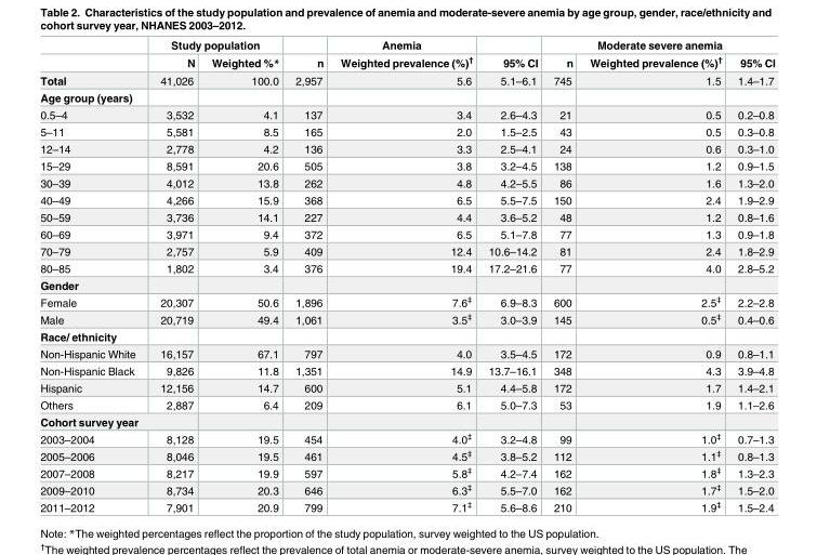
<table><thead><tr><td rowspan="2"></td><td colspan="2">Study population</td><td rowspan="2">n</td><td rowspan="2">Anemia Weighted prevalence (%)<sup>†</sup></td><td rowspan="2">95% CI</td><td colspan="3">Moderate severe anemia</td></tr><tr><td>N</td><td>Weighted %*</td><td>n</td><td>Weighted prevalence (%)<sup>†</sup></td><td>95% CI</td></tr></thead><tbody><tr><td>Total</td><td>41,026</td><td>100.0</td><td>2,957</td><td>5.6</td><td>5.1–6.1</td><td>745</td><td>1.5</td><td>1.4–1.7</td></tr><tr><td colspan="9">Age group (years)</td></tr><tr><td>0.5–4</td><td>3,532</td><td>4.1</td><td>137</td><td>3.4</td><td>2.6–4.3</td><td>21</td><td>0.5</td><td>0.2–0.8</td></tr><tr><td>5–11</td><td>5,581</td><td>8.5</td><td>165</td><td>2.0</td><td>1.5–2.5</td><td>43</td><td>0.5</td><td>0.3–0.8</td></tr><tr><td>12–14</td><td>2,778</td><td>4.2</td><td>136</td><td>3.3</td><td>2.5–4.1</td><td>24</td><td>0.6</td><td>0.3–1.0</td></tr><tr><td>15–29</td><td>8,591</td><td>20.6</td><td>505</td><td>3.8</td><td>3.2–4.5</td><td>138</td><td>1.2</td><td>0.9–1.5</td></tr><tr><td>30–39</td><td>4,012</td><td>13.8</td><td>262</td><td>4.8</td><td>4.2–5.5</td><td>86</td><td>1.6</td><td>1.3–2.0</td></tr><tr><td>40–49</td><td>4,266</td><td>15.9</td><td>368</td><td>6.5</td><td>5.5–7.5</td><td>150</td><td>2.4</td><td>1.9–2.9</td></tr><tr><td>50–59</td><td>3,736</td><td>14.1</td><td>227</td><td>4.4</td><td>3.6–5.2</td><td>48</td><td>1.2</td><td>0.8–1.6</td></tr><tr><td>60–69</td><td>3,971</td><td>9.4</td><td>372</td><td>6.5</td><td>5.1–7.8</td><td>77</td><td>1.3</td><td>0.9–1.8</td></tr><tr><td>70–79</td><td>2,757</td><td>5.9</td><td>409</td><td>12.4</td><td>10.6–14.2</td><td>81</td><td>2.4</td><td>1.8–2.9</td></tr><tr><td>80–85</td><td>1,802</td><td>3.4</td><td>376</td><td>19.4</td><td>17.2–21.6</td><td>77</td><td>4.0</td><td>2.8–5.2</td></tr><tr><td colspan="9">Gender</td></tr><tr><td>Female</td><td>20,307</td><td>50.6</td><td>1,896</td><td>7.6<sup>‡</sup></td><td>6.9–8.3</td><td>600</td><td>2.5<sup>‡</sup></td><td>2.2–2.8</td></tr><tr><td>Male</td><td>20,719</td><td>49.4</td><td>1,061</td><td>3.5<sup>‡</sup></td><td>3.0–3.9</td><td>145</td><td>0.5<sup>‡</sup></td><td>0.4–0.6</td></tr><tr><td colspan="9">Race/ ethnicity</td></tr><tr><td>Non-Hispanic White</td><td>16,157</td><td>67.1</td><td>797</td><td>4.0</td><td>3.5–4.5</td><td>172</td><td>0.9</td><td>0.8–1.1</td></tr><tr><td>Non-Hispanic Black</td><td>9,826</td><td>11.8</td><td>1,351</td><td>14.9</td><td>13.7–16.1</td><td>348</td><td>4.3</td><td>3.9–4.8</td></tr><tr><td>Hispanic</td><td>12,156</td><td>14.7</td><td>600</td><td>5.1</td><td>4.4–5.8</td><td>172</td><td>1.7</td><td>1.4–2.1</td></tr><tr><td>Others</td><td>2,887</td><td>6.4</td><td>209</td><td>6.1</td><td>5.0–7.3</td><td>53</td><td>1.9</td><td>1.1–2.6</td></tr><tr><td colspan="9">Cohort survey year</td></tr><tr><td>2003–2004</td><td>8,128</td><td>19.5</td><td>454</td><td>4.0<sup>‡</sup></td><td>3.2–4.8</td><td>99</td><td>1.0<sup>‡</sup></td><td>0.7–1.3</td></tr><tr><td>2005–2006</td><td>8,046</td><td>19.5</td><td>461</td><td>4.5<sup>‡</sup></td><td>3.8–5.2</td><td>112</td><td>1.1<sup>‡</sup></td><td>0.8–1.3</td></tr><tr><td>2007–2008</td><td>8,217</td><td>19.9</td><td>597</td><td>5.8<sup>‡</sup></td><td>4.2–7.4</td><td>162</td><td>1.8<sup>‡</sup></td><td>1.3–2.3</td></tr><tr><td>2009–2010</td><td>8,734</td><td>20.3</td><td>646</td><td>6.3<sup>‡</sup></td><td>5.5–7.0</td><td>162</td><td>1.7<sup>‡</sup></td><td>1.5–2.0</td></tr><tr><td>2011–2012</td><td>7,901</td><td>20.9</td><td>799</td><td>7.1<sup>‡</sup></td><td>5.6–8.6</td><td>210</td><td>1.9<sup>‡</sup></td><td>1.5–2.4</td></tr></tbody></table>